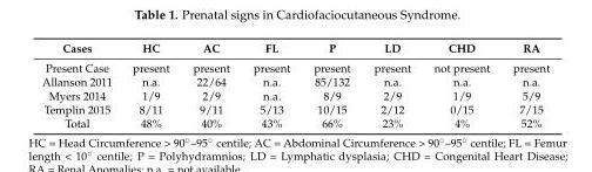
<table><thead><tr><td>Cases</td><td>HC</td><td>AC</td><td>FL</td><td>P</td><td>LD</td><td>CHD</td><td>RA</td></tr></thead><tbody><tr><td>Present Case</td><td>present</td><td>present</td><td>present</td><td>present</td><td>present</td><td>not present</td><td>present</td></tr><tr><td>Allanson 2011</td><td>n.a.</td><td>22/64</td><td>n.a.</td><td>85/132</td><td>n.a.</td><td>n.a.</td><td>n.a.</td></tr><tr><td>Myers 2014</td><td>1/9</td><td>2/9</td><td>n.a.</td><td>8/9</td><td>2/9</td><td>1/9</td><td>5/9</td></tr><tr><td>Templin 2015</td><td>8/11</td><td>9/11</td><td>5/13</td><td>10/15</td><td>2/12</td><td>0/15</td><td>7/15</td></tr><tr><td>Total</td><td>48%</td><td>40%</td><td>43%</td><td>66%</td><td>23%</td><td>4%</td><td>52%</td></tr></tbody></table>